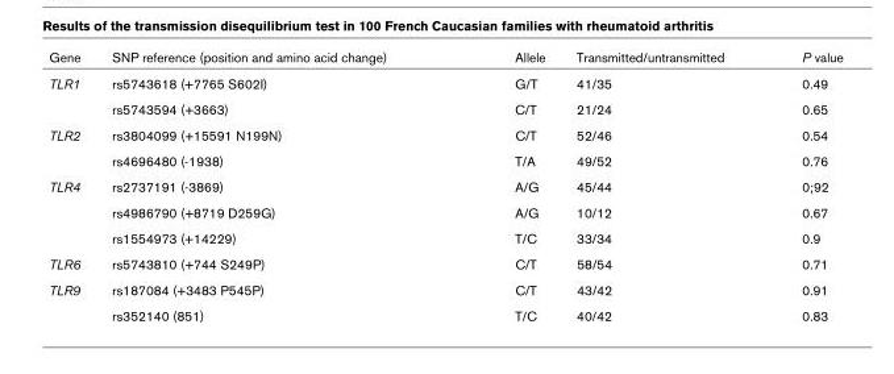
<table><thead><tr><td>Gene</td><td>SNP reference (position and amino acid change)</td><td>Allele</td><td>Transmitted/untransmitted</td><td>P value</td></tr></thead><tbody><tr><td rowspan="2">TLR1</td><td>rs5743618 (+7765 S602I)</td><td>G/T</td><td>41/35</td><td>0.49</td></tr><tr><td>rs5743594 (+3663)</td><td>C/T</td><td>21/24</td><td>0.65</td></tr><tr><td rowspan="2">TLR2</td><td>rs3804099 (+15591 N199N)</td><td>C/T</td><td>52/46</td><td>0.54</td></tr><tr><td>rs4696480 (-1938)</td><td>T/A</td><td>49/52</td><td>0.76</td></tr><tr><td rowspan="3">TLR4</td><td>rs2737191 (-3869)</td><td>A/G</td><td>45/44</td><td>0;92</td></tr><tr><td>rs4986790 (+8719 D259G)</td><td>A/G</td><td>10/12</td><td>0.67</td></tr><tr><td>rs1554973 (+14229)</td><td>T/C</td><td>33/34</td><td>0.9</td></tr><tr><td>TLR6</td><td>rs5743810 (+744 S249P)</td><td>C/T</td><td>58/54</td><td>0.71</td></tr><tr><td rowspan="2">TLR9</td><td>rs187084 (+3483 P545P)</td><td>C/T</td><td>43/42</td><td>0.91</td></tr><tr><td>rs352140 (851)</td><td>T/C</td><td>40/42</td><td>0.83</td></tr></tbody></table>